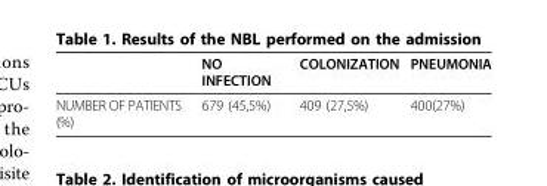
<table><thead><tr><td></td><td>NO INFECTION</td><td>COLONIZATION</td><td>PNEUMONIA</td></tr></thead><tbody><tr><td>NUMBER OF PATIENTS (%)</td><td>679 (45,5%)</td><td>409 (27,5%)</td><td>400(27%)</td></tr></tbody></table>